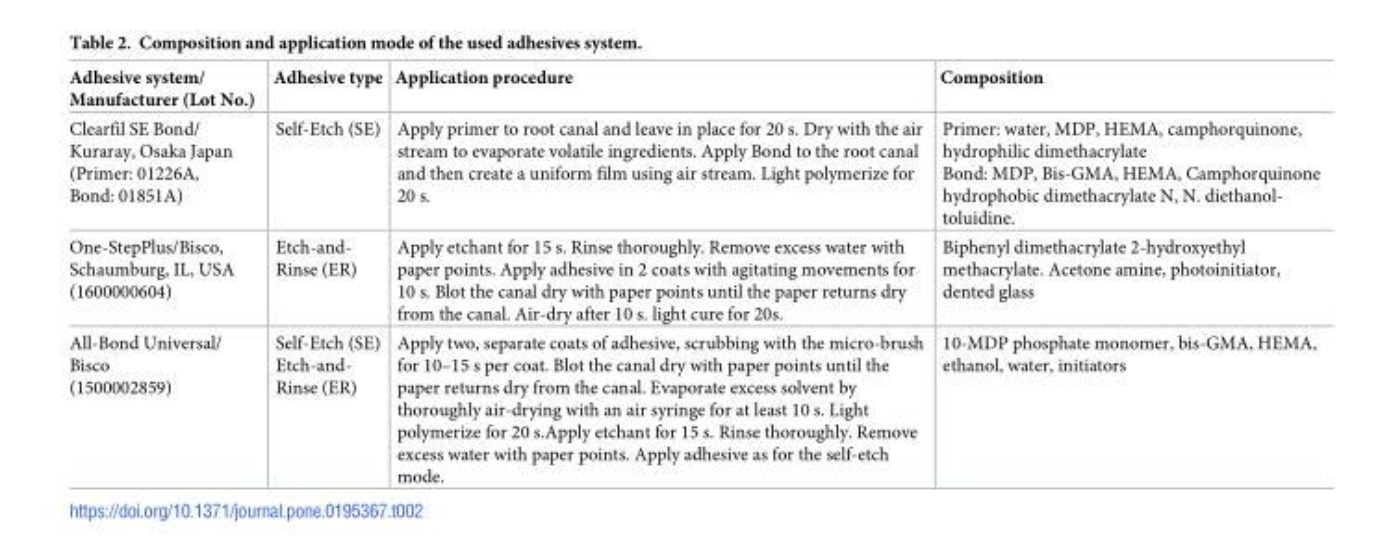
<table><thead><tr><td>Adhesive system/ Manufacturer (Lot No.)</td><td>Adhesive type</td><td>Application procedure</td><td>Composition</td></tr></thead><tbody><tr><td>Clearfil SE Bond/ Kuraray, Osaka Japan (Primer: 01226A, Bond: 01851A)</td><td>Self-Etch (SE)</td><td>Apply primer to root canal and leave in place for 20 s. Dry with the air stream to evaporate volatile ingredients. Apply Bond to the root canal and then create a uniform film using air stream. Light polymerize for 20 s.</td><td>Primer: water, MDP, HEMA, camphorquinone, hydrophilic dimethacrylate Bond: MDP, Bis-GMA, HEMA, Camphorquinone hydrophobic dimethacrylate N, N. diethanol- toluidine.</td></tr><tr><td>One-StepPlus/Bisco, Schaumburg, IL, USA (1600000604)</td><td>Etch-and- Rinse (ER)</td><td>Apply etchant for 15 s. Rinse thoroughly. Remove excess water with paper points. Apply adhesive in 2 coats with agitating movements for 10 s. Blot the canal dry with paper points until the paper returns dry from the canal. Air-dry after 10 s. light cure for 20s.</td><td>Biphenyl dimethacrylate 2-hydroxyethyl methacrylate. Acetone amine, photoinitiator, dented glass</td></tr><tr><td>All-Bond Universal/ Bisco (1500002859)</td><td>Self-Etch (SE) Etch-and- Rinse (ER)</td><td>Apply two, separate coats of adhesive, scrubbing with the micro-brush for 10–15 s per coat. Blot the canal dry with paper points until the paper returns dry from the canal. Evaporate excess solvent by thoroughly air-drying with an air syringe for at least 10 s. Light polymerize for 20 s.Apply etchant for 15 s. Rinse thoroughly. Remove excess water with paper points. Apply adhesive as for the self-etch mode.</td><td>10-MDP phosphate monomer, bis-GMA, HEMA, ethanol, water, initiators</td></tr></tbody></table>